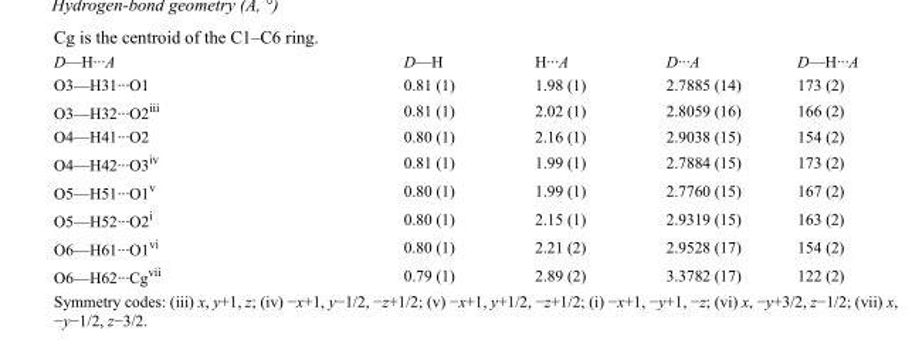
<table><tbody><tr><td>D—H···A</td><td>D—H</td><td>H···A</td><td>D···A</td><td>D—H···A</td></tr><tr><td>O3—H31···O1</td><td>0.81 (1)</td><td>1.98 (1)</td><td>2.7885 (14)</td><td>173 (2)</td></tr><tr><td>O3—H32···O2<sup>iii</sup></td><td>0.81 (1)</td><td>2.02 (1)</td><td>2.8059 (16)</td><td>166 (2)</td></tr><tr><td>O4—H41···O2</td><td>0.80 (1)</td><td>2.16 (1)</td><td>2.9038 (15)</td><td>154 (2)</td></tr><tr><td>O4—H42···O3<sup>iv</sup></td><td>0.81 (1)</td><td>1.99 (1)</td><td>2.7884 (15)</td><td>173 (2)</td></tr><tr><td>O5—H51···O1<sup>v</sup></td><td>0.80 (1)</td><td>1.99 (1)</td><td>2.7760 (15)</td><td>167 (2)</td></tr><tr><td>O5—H52···O2<sup>i</sup></td><td>0.80 (1)</td><td>2.15 (1)</td><td>2.9319 (15)</td><td>163 (2)</td></tr><tr><td>O6—H61···O1<sup>vi</sup></td><td>0.80 (1)</td><td>2.21 (2)</td><td>2.9528 (17)</td><td>154 (2)</td></tr><tr><td>O6—H62···Cg<sup>vii</sup></td><td>0.79 (1)</td><td>2.89 (2)</td><td>3.3782 (17)</td><td>122 (2)</td></tr></tbody></table>